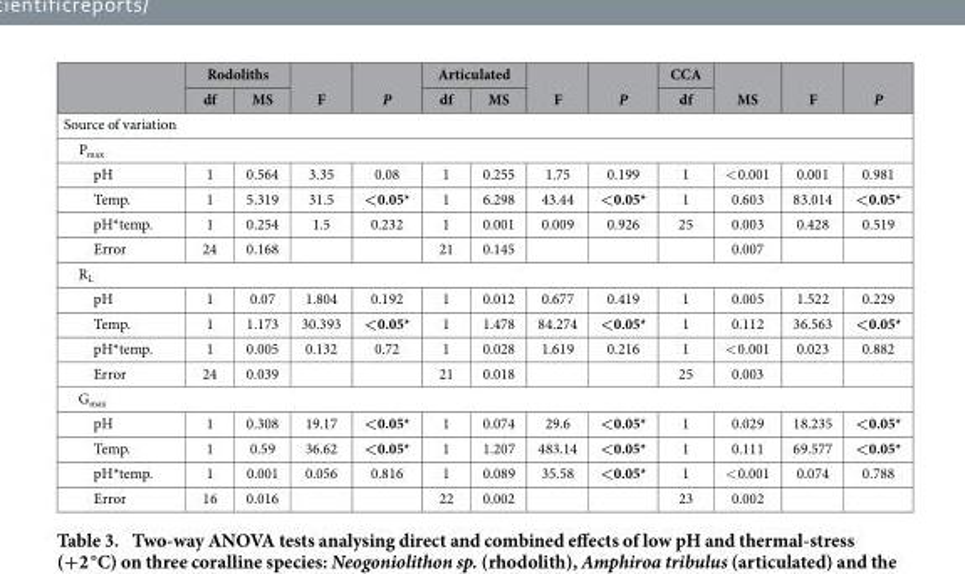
<table><thead><tr><td rowspan="2"></td><td colspan="2">Rodoliths</td><td rowspan="2">F</td><td rowspan="2">P</td><td colspan="2">Articulated</td><td rowspan="2">F</td><td rowspan="2">P</td><td rowspan="2">CCA df</td><td rowspan="2">MS</td><td rowspan="2">F</td><td rowspan="2">P</td></tr><tr><td>df</td><td>MS</td><td>df</td><td>MS</td></tr></thead><tbody><tr><td colspan="13">Source of variation</td></tr><tr><td colspan="13">P<sub>max</sub></td></tr><tr><td>pH</td><td>1</td><td>0.564</td><td>3.35</td><td>0.08</td><td>1</td><td>0.255</td><td>1.75</td><td>0.199</td><td>1</td><td>&lt; 0.001</td><td>0.001</td><td>0.981</td></tr><tr><td>Temp.</td><td>1</td><td>5.319</td><td>31.5</td><td>&lt;0.05*</td><td>1</td><td>6.298</td><td>43.44</td><td>&lt;0.05*</td><td>1</td><td>0.603</td><td>83.014</td><td>&lt;0.05*</td></tr><tr><td>pH*temp.</td><td>1</td><td>0.254</td><td>1.5</td><td>0.232</td><td>1</td><td>0.001</td><td>0.009</td><td>0.926</td><td>25</td><td>0.003</td><td>0.428</td><td>0.519</td></tr><tr><td>Error</td><td>24</td><td>0.168</td><td></td><td></td><td>21</td><td>0.145</td><td></td><td></td><td></td><td>0.007</td><td></td><td></td></tr><tr><td colspan="13">R<sub>L</sub></td></tr><tr><td>pH</td><td>1</td><td>0.07</td><td>1.804</td><td>0.192</td><td>1</td><td>0.012</td><td>0.677</td><td>0.419</td><td>1</td><td>0.005</td><td>1.522</td><td>0.229</td></tr><tr><td>Temp.</td><td>1</td><td>1.173</td><td>30.393</td><td>&lt;0.05*</td><td>1</td><td>1.478</td><td>84.274</td><td>&lt;0.05*</td><td>1</td><td>0.112</td><td>36.563</td><td>&lt;0.05*</td></tr><tr><td>pH*temp.</td><td>1</td><td>0.005</td><td>0.132</td><td>0.72</td><td>1</td><td>0.028</td><td>1.619</td><td>0.216</td><td>1</td><td>&lt; 0.001</td><td>0.023</td><td>0.882</td></tr><tr><td>Error</td><td>24</td><td>0.039</td><td></td><td></td><td>21</td><td>0.018</td><td></td><td></td><td>25</td><td>0.003</td><td></td><td></td></tr><tr><td colspan="13">G<sub>max</sub></td></tr><tr><td>pH</td><td>1</td><td>0.308</td><td>19.17</td><td>&lt;0.05*</td><td>1</td><td>0.074</td><td>29.6</td><td>&lt;0.05*</td><td>1</td><td>0.029</td><td>18.235</td><td>&lt;0.05*</td></tr><tr><td>Temp.</td><td>1</td><td>0.59</td><td>36.62</td><td>&lt;0.05*</td><td>1</td><td>1.207</td><td>483.14</td><td>&lt;0.05*</td><td>1</td><td>0.111</td><td>69.577</td><td>&lt;0.05*</td></tr><tr><td>pH*temp.</td><td>1</td><td>0.001</td><td>0.056</td><td>0.816</td><td>1</td><td>0.089</td><td>35.58</td><td>&lt;0.05*</td><td>1</td><td>&lt; 0.001</td><td>0.074</td><td>0.788</td></tr><tr><td>Error</td><td>16</td><td>0.016</td><td></td><td></td><td>22</td><td>0.002</td><td></td><td></td><td>23</td><td>0.002</td><td></td><td></td></tr></tbody></table>